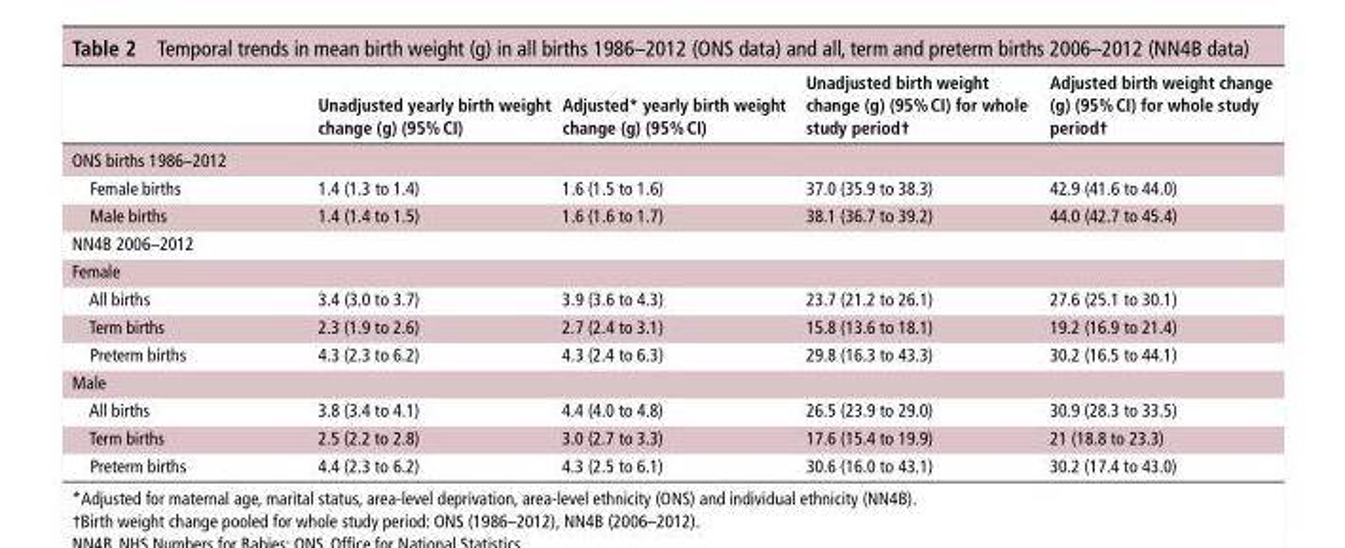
<table><thead><tr><td></td><td>unadjusted yearly birth weight change (g) (95% CI)</td><td>Adjusted* yearly birth weight change (g) (95% CI)</td><td>unadjusted birth weight change (g) (95% CI) for whole study period†</td><td>Adjusted birth weight change (g) (95% CI) for whole study period†</td></tr></thead><tbody><tr><td colspan="5">ONS births 1986–2012</td></tr><tr><td>Female births</td><td>1.4 (1.3 to 1.4)</td><td>1.6 (1.5 to 1.6)</td><td>37.0 (35.9 to 38.3)</td><td>42.9 (41.6 to 44.0)</td></tr><tr><td>Male births</td><td>1.4 (1.4 to 1.5)</td><td>1.6 (1.6 to 1.7)</td><td>38.1 (36.7 to 39.2)</td><td>44.0 (42.7 to 45.4)</td></tr><tr><td colspan="5">NN4B 2006–2012</td></tr><tr><td colspan="5">Female</td></tr><tr><td>All births</td><td>3.4 (3.0 to 3.7)</td><td>3.9 (3.6 to 4.3)</td><td>23.7 (21.2 to 26.1)</td><td>27.6 (25.1 to 30.1)</td></tr><tr><td>Term births</td><td>2.3 (1.9 to 2.6)</td><td>2.7 (2.4 to 3.1)</td><td>15.8 (13.6 to 18.1)</td><td>19.2 (16.9 to 21.4)</td></tr><tr><td>Preterm births</td><td>4.3 (2.3 to 6.2)</td><td>4.3 (2.4 to 6.3)</td><td>29.8 (16.3 to 43.3)</td><td>30.2 (16.5 to 44.1)</td></tr><tr><td colspan="5">Male</td></tr><tr><td>All births</td><td>3.8 (3.4 to 4.1)</td><td>4.4 (4.0 to 4.8)</td><td>26.5 (23.9 to 29.0)</td><td>30.9 (28.3 to 33.5)</td></tr><tr><td>Term births</td><td>2.5 (2.2 to 2.8)</td><td>3.0 (2.7 to 3.3)</td><td>17.6 (15.4 to 19.9)</td><td>21 (18.8 to 23.3)</td></tr><tr><td>Preterm births</td><td>4.4 (2.3 to 6.2)</td><td>4.3 (2.5 to 6.1)</td><td>30.6 (16.0 to 43.1)</td><td>30.2 (17.4 to 43.0)</td></tr></tbody></table>